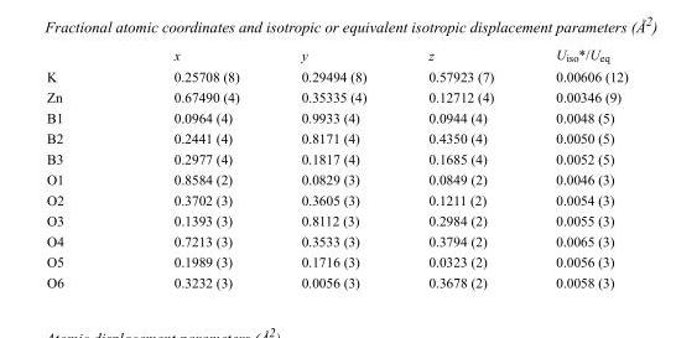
<table><thead><tr><td></td><td>x</td><td>y</td><td>z</td><td>U<sub>iso</sub>*/U<sub>eq</sub></td></tr></thead><tbody><tr><td>K</td><td>0.25708 (8)</td><td>0.29494 (8)</td><td>0.57923 (7)</td><td>0.00606 (12)</td></tr><tr><td>Zn</td><td>0.67490 (4)</td><td>0.35335 (4)</td><td>0.12712 (4)</td><td>0.00346 (9)</td></tr><tr><td>B1</td><td>0.0964 (4)</td><td>0.9933 (4)</td><td>0.0944 (4)</td><td>0.0048 (5)</td></tr><tr><td>B2</td><td>0.2441 (4)</td><td>0.8171 (4)</td><td>0.4350 (4)</td><td>0.0050 (5)</td></tr><tr><td>B3</td><td>0.2977 (4)</td><td>0.1817 (4)</td><td>0.1685 (4)</td><td>0.0052 (5)</td></tr><tr><td>O1</td><td>0.8584 (2)</td><td>0.0829 (3)</td><td>0.0849 (2)</td><td>0.0046 (3)</td></tr><tr><td>O2</td><td>0.3702 (3)</td><td>0.3605 (3)</td><td>0.1211 (2)</td><td>0.0054 (3)</td></tr><tr><td>O3</td><td>0.1393 (3)</td><td>0.8112 (3)</td><td>0.2984 (2)</td><td>0.0055 (3)</td></tr><tr><td>O4</td><td>0.7213 (3)</td><td>0.3533 (3)</td><td>0.3794 (2)</td><td>0.0065 (3)</td></tr><tr><td>O5</td><td>0.1989 (3)</td><td>0.1716 (3)</td><td>0.0323 (2)</td><td>0.0056 (3)</td></tr><tr><td>O6</td><td>0.3232 (3)</td><td>0.0056 (3)</td><td>0.3678 (2)</td><td>0.0058 (3)</td></tr></tbody></table>